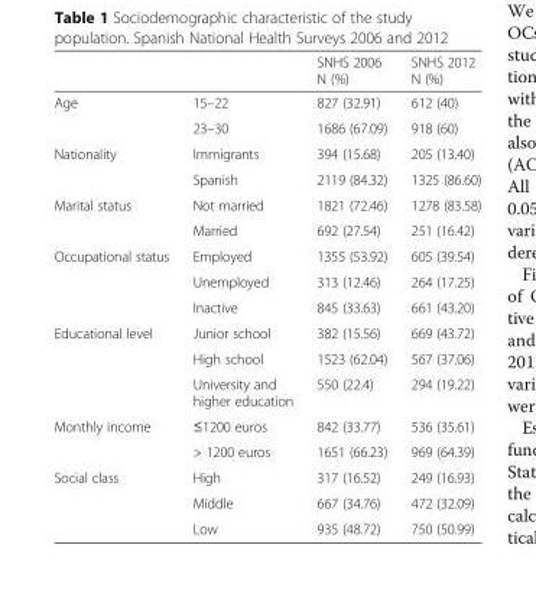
<table><thead><tr><td></td><td></td><td>SNHS 2006 N (%)</td><td>SNHS 2012 N (%)</td></tr></thead><tbody><tr><td rowspan="2">Age</td><td>15–22</td><td>827 (32.91)</td><td>612 (40)</td></tr><tr><td>23–30</td><td>1686 (67.09)</td><td>918 (60)</td></tr><tr><td rowspan="2">Nationality</td><td>Immigrants</td><td>394 (15.68)</td><td>205 (13.40)</td></tr><tr><td>Spanish</td><td>2119 (84.32)</td><td>1325 (86.60)</td></tr><tr><td rowspan="2">Marital status</td><td>Not married</td><td>1821 (72.46)</td><td>1278 (83.58)</td></tr><tr><td>Married</td><td>692 (27.54)</td><td>251 (16.42)</td></tr><tr><td rowspan="3">Occupational status</td><td>Employed</td><td>1355 (53.92)</td><td>605 (39.54)</td></tr><tr><td>Unemployed</td><td>313 (12.46)</td><td>264 (17.25)</td></tr><tr><td>Inactive</td><td>845 (33.63)</td><td>661 (43.20)</td></tr><tr><td rowspan="3">Educational level</td><td>Junior school</td><td>382 (15.56)</td><td>669 (43.72)</td></tr><tr><td>High school</td><td>1523 (62.04)</td><td>567 (37.06)</td></tr><tr><td>University and higher education</td><td>550 (22.4)</td><td>294 (19.22)</td></tr><tr><td rowspan="2">Monthly income</td><td>≤1200 euros</td><td>842 (33.77)</td><td>536 (35.61)</td></tr><tr><td>&gt; 1200 euros</td><td>1651 (66.23)</td><td>969 (64.39)</td></tr><tr><td rowspan="3">Social class</td><td>High</td><td>317 (16.52)</td><td>249 (16.93)</td></tr><tr><td>Middle</td><td>667 (34.76)</td><td>472 (32.09)</td></tr><tr><td>Low</td><td>935 (48.72)</td><td>750 (50.99)</td></tr></tbody></table>